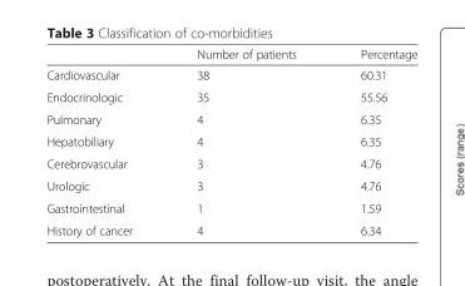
<table><thead><tr><td></td><td>Number of patients</td><td>Percentage</td></tr></thead><tbody><tr><td>Cardiovascular</td><td>38</td><td>60.31</td></tr><tr><td>Endocrinologic</td><td>35</td><td>55.56</td></tr><tr><td>Pulmonary</td><td>4</td><td>6.35</td></tr><tr><td>Hepatobiliary</td><td>4</td><td>6.35</td></tr><tr><td>Cerebrovascular</td><td>3</td><td>4.76</td></tr><tr><td>Urologic</td><td>3</td><td>4.76</td></tr><tr><td>Gastrointestinal</td><td>1</td><td>1.59</td></tr><tr><td>History of cancer</td><td>4</td><td>6.34</td></tr></tbody></table>